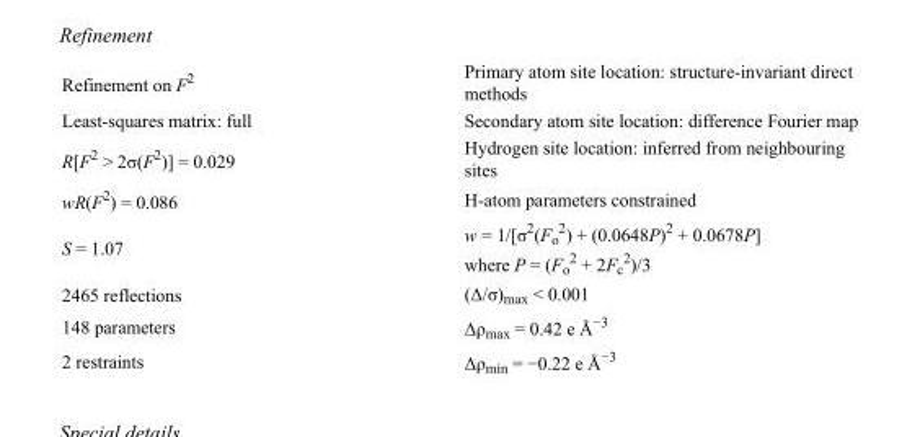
<table><tbody><tr><td>Refinement on F<sup>2</sup></td><td>Primary atom site location: structure-invariant direct methods</td></tr><tr><td>Least-squares matrix: full</td><td>Secondary atom site location: difference Fourier map</td></tr><tr><td>R[F<sup>2</sup> &gt; 2σ(F<sup>2</sup>)] = 0.029</td><td>Hydrogen site location: inferred from neighbouring sites</td></tr><tr><td>wR(F<sup>2</sup>) = 0.086</td><td>H-atom parameters constrained</td></tr><tr><td>S = 1.07</td><td>w = 1/[σ<sup>2</sup>(F<sub>o</sub> <sup>2</sup>) + (0.0648P)<sup>2</sup> + 0.0678P] where P = (F<sub>o</sub> <sup>2</sup> + 2F<sub>c</sub> <sup>2</sup>)/3</td></tr><tr><td>2465 reflections</td><td>(Δ/σ)<sub>max</sub> &lt; 0.001</td></tr><tr><td>148 parameters</td><td>Δρ<sub>max</sub> = 0.42 e Å<sup>−3</sup></td></tr><tr><td>2 restraints</td><td>Δρ<sub>min</sub> = −0.22 e Å<sup>−3</sup></td></tr></tbody></table>